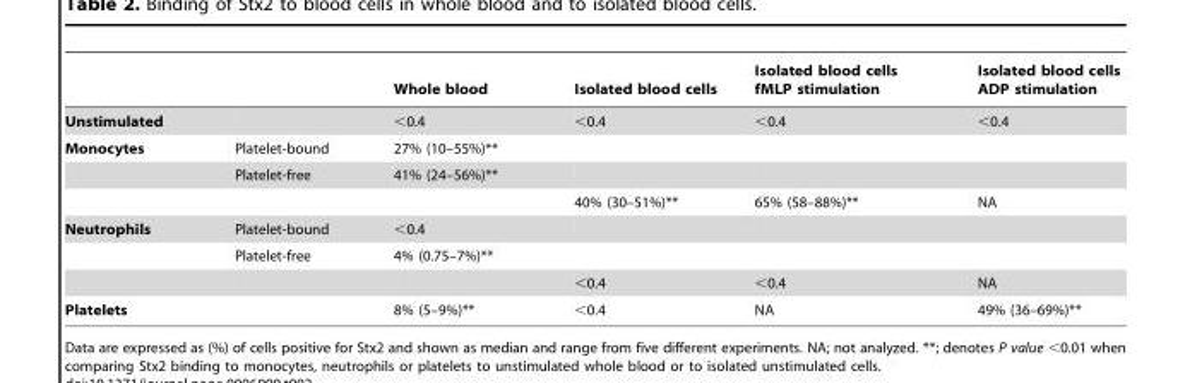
<table><thead><tr><td></td><td></td><td>Whole blood</td><td>Isolated blood cells</td><td>Isolated blood cells fMLP stimulation</td><td>Isolated blood cells ADP stimulation</td></tr></thead><tbody><tr><td>Unstimulated</td><td></td><td>&lt;0.4</td><td>&lt;0.4</td><td>&lt;0.4</td><td>&lt;0.4</td></tr><tr><td rowspan="3">Monocytes</td><td>Platelet-bound</td><td>27% (10–55%)**</td><td></td><td></td><td></td></tr><tr><td>Platelet-free</td><td>41% (24–56%)**</td><td></td><td></td><td></td></tr><tr><td></td><td></td><td>40% (30–51%)**</td><td>65% (58–88%)**</td><td>NA</td></tr><tr><td rowspan="3">Neutrophils</td><td>Platelet-bound</td><td>&lt;0.4</td><td></td><td></td><td></td></tr><tr><td>Platelet-free</td><td>4% (0.75–7%)**</td><td></td><td></td><td></td></tr><tr><td></td><td></td><td>&lt;0.4</td><td>&lt;0.4</td><td>NA</td></tr><tr><td>Platelets</td><td></td><td>8% (5–9%)**</td><td>&lt;0.4</td><td>NA</td><td>49% (36–69%)**</td></tr></tbody></table>